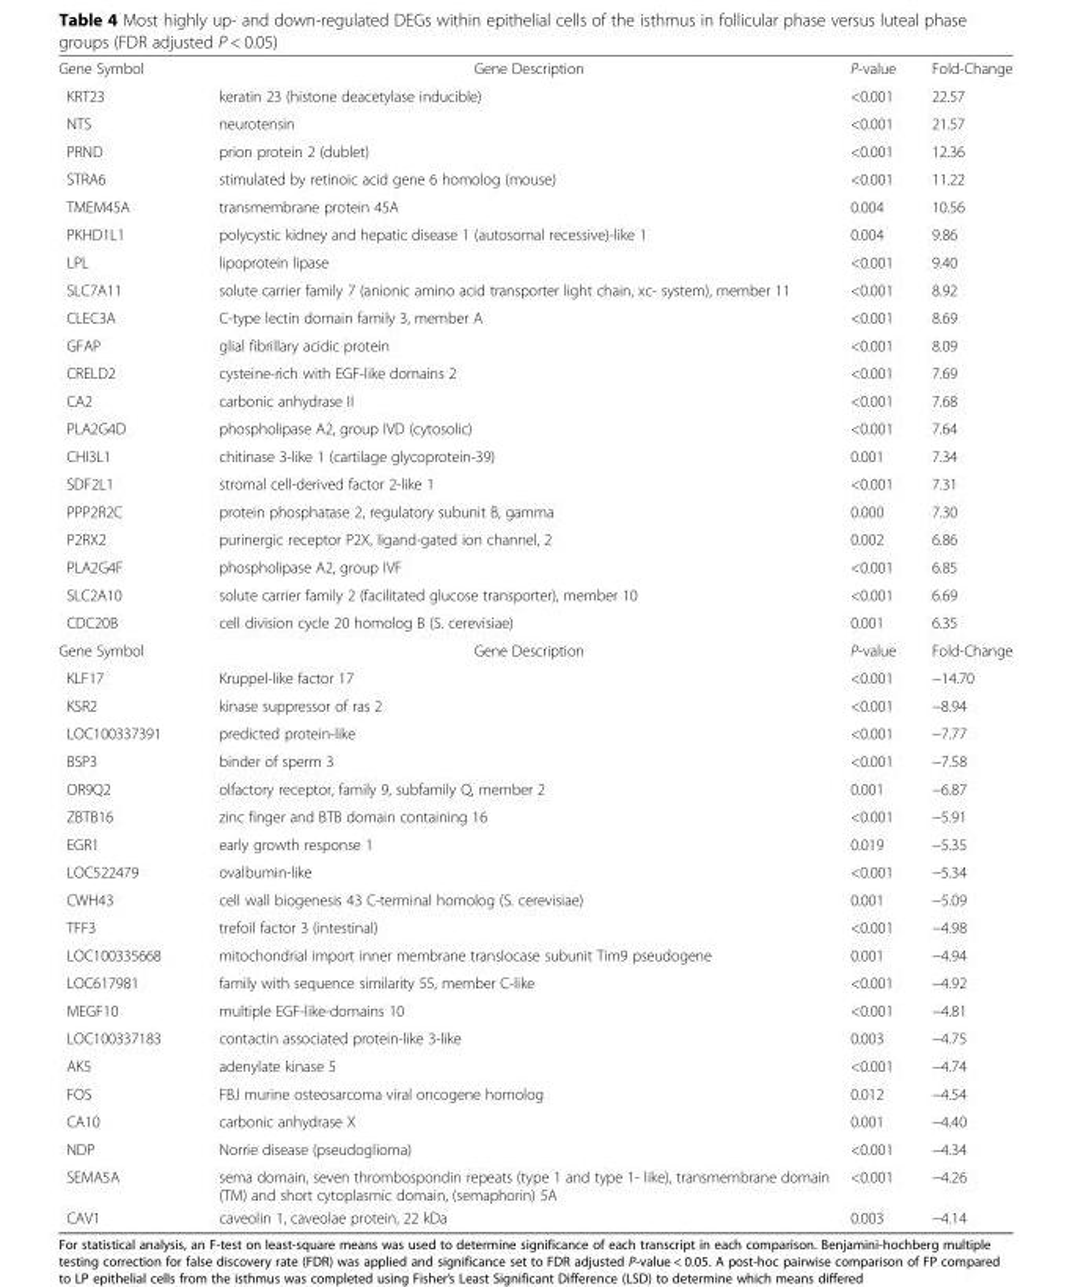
<table><tbody><tr><td>Gene Symbol</td><td>Gene Description</td><td>P-value</td><td>Fold-Change</td></tr><tr><td>KRT23</td><td>keratin 23 (histone deacetylase inducible)</td><td>&lt;0.001</td><td>22.57</td></tr><tr><td>NTS</td><td>neurotensin</td><td>&lt;0.001</td><td>21.57</td></tr><tr><td>PRND</td><td>prion protein 2 (dublet)</td><td>&lt;0.001</td><td>12.36</td></tr><tr><td>STRA6</td><td>stimulated by retinoic acid gene 6 homolog (mouse)</td><td>&lt;0.001</td><td>11.22</td></tr><tr><td>TMEM45A</td><td>transmembrane protein 45A</td><td>0.004</td><td>10.56</td></tr><tr><td>PKHD1L1</td><td>polycystic kidney and hepatic disease 1 (autosomal recessive)-like 1</td><td>0.004</td><td>9.86</td></tr><tr><td>LPL</td><td>lipoprotein lipase</td><td>&lt;0.001</td><td>9.40</td></tr><tr><td>SLC7A11</td><td>solute carrier family 7 (anionic amino acid transporter light chain, xc- system), member 11</td><td>&lt;0.001</td><td>8.92</td></tr><tr><td>CLEC3A</td><td>C-type lectin domain family 3, member A</td><td>&lt;0.001</td><td>8.69</td></tr><tr><td>GFAP</td><td>glial fibrillary acidic protein</td><td>&lt;0.001</td><td>8.09</td></tr><tr><td>CRELD2</td><td>cysteine-rich with EGF-like domains 2</td><td>&lt;0.001</td><td>7.69</td></tr><tr><td>CA2</td><td>carbonic anhydrase II</td><td>&lt;0.001</td><td>7.68</td></tr><tr><td>PLA2G4D</td><td>phospholipase A2, group IVD (cytosolic)</td><td>&lt;0.001</td><td>7.64</td></tr><tr><td>CHI3L1</td><td>chitinase 3-like 1 (cartilage glycoprotein-39)</td><td>0.001</td><td>7.34</td></tr><tr><td>SDF2L1</td><td>stromal cell-derived factor 2-like 1</td><td>&lt;0.001</td><td>7.31</td></tr><tr><td>PPP2R2C</td><td>protein phosphatase 2, regulatory subunit B, gamma</td><td>0.000</td><td>7.30</td></tr><tr><td>P2RX2</td><td>purinergic receptor P2X, ligand-gated ion channel, 2</td><td>0.002</td><td>6.86</td></tr><tr><td>PLA2G4F</td><td>phospholipase A2, group IVF</td><td>&lt;0.001</td><td>6.85</td></tr><tr><td>SLC2A10</td><td>solute carrier family 2 (facilitated glucose transporter), member 10</td><td>&lt;0.001</td><td>6.69</td></tr><tr><td>CDC20B</td><td>cell division cycle 20 homolog B (S. cerevisiae)</td><td>0.001</td><td>6.35</td></tr><tr><td>Gene Symbol</td><td>Gene Description</td><td>P-value</td><td>Fold-Change</td></tr><tr><td>KLF17</td><td>Kruppel-like factor 17</td><td>&lt;0.001</td><td>−14.70</td></tr><tr><td>KSR2</td><td>kinase suppressor of ras 2</td><td>&lt;0.001</td><td>−8.94</td></tr><tr><td>LOC100337391</td><td>predicted protein-like</td><td>&lt;0.001</td><td>−7.77</td></tr><tr><td>BSP3</td><td>binder of sperm 3</td><td>&lt;0.001</td><td>−7.58</td></tr><tr><td>OR9Q2</td><td>olfactory receptor, family 9, subfamily Q, member 2</td><td>0.001</td><td>−6.87</td></tr><tr><td>ZBTB16</td><td>zinc finger and BTB domain containing 16</td><td>&lt;0.001</td><td>−5.91</td></tr><tr><td>EGR1</td><td>early growth response 1</td><td>0.019</td><td>−5.35</td></tr><tr><td>LOC522479</td><td>ovalbumin-like</td><td>&lt;0.001</td><td>−5.34</td></tr><tr><td>CWH43</td><td>cell wall biogenesis 43 C-terminal homolog (S. cerevisiae)</td><td>0.001</td><td>−5.09</td></tr><tr><td>TFF3</td><td>trefoil factor 3 (intestinal)</td><td>&lt;0.001</td><td>−4.98</td></tr><tr><td>LOC100335668</td><td>mitochondrial import inner membrane translocase subunit Tim9 pseudogene</td><td>0.001</td><td>−4.94</td></tr><tr><td>LOC617981</td><td>family with sequence similarity 55, member C-like</td><td>&lt;0.001</td><td>−4.92</td></tr><tr><td>MEGF10</td><td>multiple EGF-like-domains 10</td><td>&lt;0.001</td><td>−4.81</td></tr><tr><td>LOC100337183</td><td>contactin associated protein-like 3-like</td><td>0.003</td><td>−4.75</td></tr><tr><td>AK5</td><td>adenylate kinase 5</td><td>&lt;0.001</td><td>−4.74</td></tr><tr><td>FOS</td><td>FBJ murine osteosarcoma viral oncogene homolog</td><td>0.012</td><td>−4.54</td></tr><tr><td>CA10</td><td>carbonic anhydrase X</td><td>0.001</td><td>−4.40</td></tr><tr><td>NDP</td><td>Norrie disease (pseudoglioma)</td><td>&lt;0.001</td><td>−4.34</td></tr><tr><td>SEMA5A</td><td>sema domain, seven thrombospondin repeats (type 1 and type 1- like), transmembrane domain (TM) and short cytoplasmic domain, (semaphorin) 5A</td><td>&lt;0.001</td><td>−4.26</td></tr><tr><td>CAV1</td><td>caveolin 1, caveolae protein, 22 kDa</td><td>0.003</td><td>−4.14</td></tr></tbody></table>